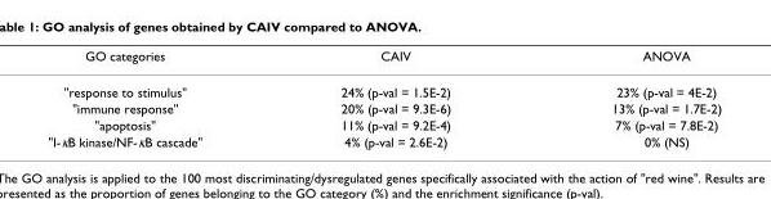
<table><thead><tr><td>GO categories</td><td>CAIV</td><td>ANOVA</td></tr></thead><tbody><tr><td>&quot;response to stimulus&quot;</td><td>24% (p-val = 1.5E-2)</td><td>23% (p-val = 4E-2)</td></tr><tr><td>&quot;immune response&quot;</td><td>20% (p-val = 9.3E-6)</td><td>13% (p-val = 1.7E-2)</td></tr><tr><td>&quot;apoptosis&quot;</td><td>11% (p-val = 9.2E-4)</td><td>7% (p-val = 7.8E-2)</td></tr><tr><td>&quot;I-κB kinase/NF-κB cascade&quot;</td><td>4% (p-val = 2.6E-2)</td><td>0% (NS)</td></tr></tbody></table>